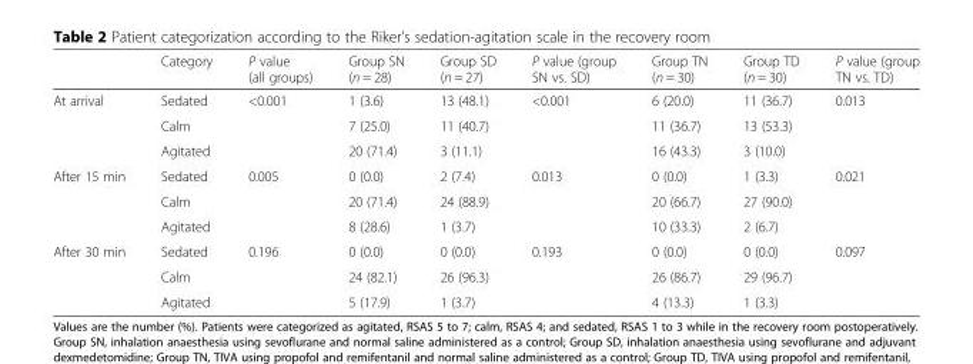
<table><thead><tr><td></td><td>Category</td><td>P value (all groups)</td><td>Group SN (n = 28)</td><td>Group SD (n = 27)</td><td>P value (group SN vs. SD)</td><td>Group TN (n = 30)</td><td>Group TD (n = 30)</td><td>P value (group TN vs. TD)</td></tr></thead><tbody><tr><td rowspan="3">At arrival</td><td>Sedated</td><td rowspan="3">&lt;0.001</td><td>1 (3.6)</td><td>13 (48.1)</td><td rowspan="3">&lt;0.001</td><td>6 (20.0)</td><td>11 (36.7)</td><td rowspan="3">0.013</td></tr><tr><td>Calm</td><td>7 (25.0)</td><td>11 (40.7)</td><td>11 (36.7)</td><td>13 (53.3)</td></tr><tr><td>Agitated</td><td>20 (71.4)</td><td>3 (11.1)</td><td>16 (43.3)</td><td>3 (10.0)</td></tr><tr><td rowspan="3">After 15 min</td><td>Sedated</td><td rowspan="3">0.005</td><td>0 (0.0)</td><td>2 (7.4)</td><td rowspan="3">0.013</td><td>0 (0.0)</td><td>1 (3.3)</td><td rowspan="3">0.021</td></tr><tr><td>Calm</td><td>20 (71.4)</td><td>24 (88.9)</td><td>20 (66.7)</td><td>27 (90.0)</td></tr><tr><td>Agitated</td><td>8 (28.6)</td><td>1 (3.7)</td><td>10 (33.3)</td><td>2 (6.7)</td></tr><tr><td rowspan="3">After 30 min</td><td>Sedated</td><td rowspan="3">0.196</td><td>0 (0.0)</td><td>0 (0.0)</td><td rowspan="3">0.193</td><td>0 (0.0)</td><td>0 (0.0)</td><td rowspan="3">0.097</td></tr><tr><td>Calm</td><td>24 (82.1)</td><td>26 (96.3)</td><td>26 (86.7)</td><td>29 (96.7)</td></tr><tr><td>Agitated</td><td>5 (17.9)</td><td>1 (3.7)</td><td>4 (13.3)</td><td>1 (3.3)</td></tr></tbody></table>